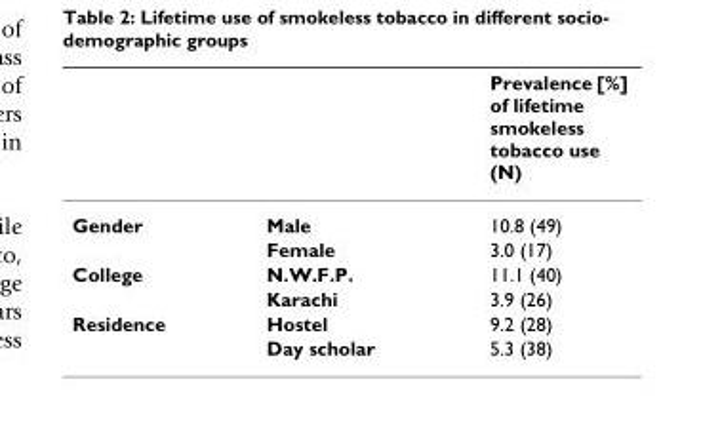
<table><thead><tr><td></td><td></td><td>Prevalence [%] of lifetime smokeless tobacco use (N)</td></tr></thead><tbody><tr><td rowspan="2">Gender</td><td>Male</td><td>10.8 (49)</td></tr><tr><td>Female</td><td>3.0 (17)</td></tr><tr><td rowspan="2">College</td><td>N.W.F.P.</td><td>11.1 (40)</td></tr><tr><td>Karachi</td><td>3.9 (26)</td></tr><tr><td rowspan="2">Residence</td><td>Hostel</td><td>9.2 (28)</td></tr><tr><td>Day scholar</td><td>5.3 (38)</td></tr></tbody></table>